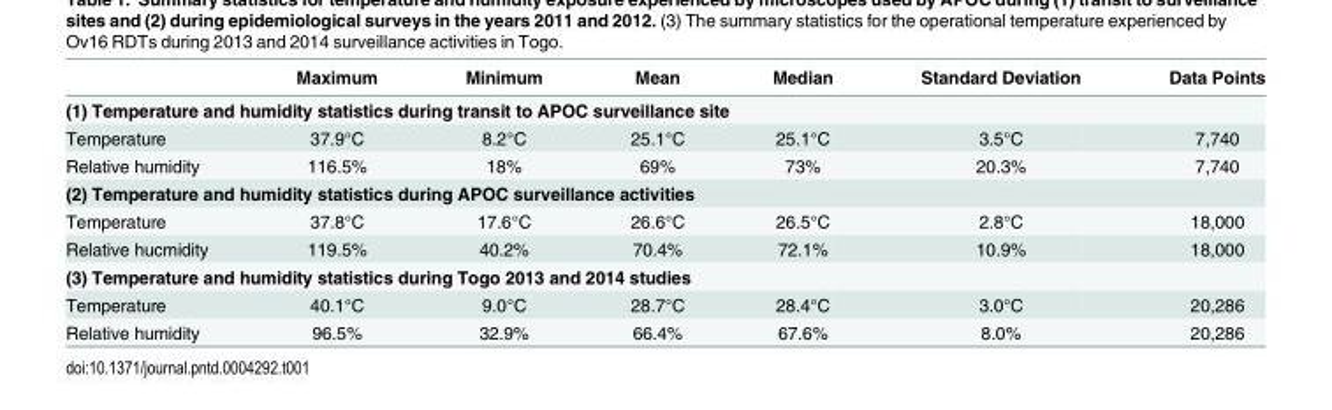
<table><thead><tr><td></td><td>Maximum</td><td>Minimum</td><td>Mean</td><td>Median</td><td>Standard Deviation</td><td>Data Points</td></tr></thead><tbody><tr><td colspan="7">(1) Temperature and humidity statistics during transit to APOC surveillance site</td></tr><tr><td>Temperature</td><td>37.9°C</td><td>8.2°C</td><td>25.1°C</td><td>25.1°C</td><td>3.5°C</td><td>7,740</td></tr><tr><td>Relative humidity</td><td>116.5%</td><td>18%</td><td>69%</td><td>73%</td><td>20.3%</td><td>7,740</td></tr><tr><td colspan="7">(2) Temperature and humidity statistics during APOC surveillance activities</td></tr><tr><td>Temperature</td><td>37.8°C</td><td>17.6°C</td><td>26.6°C</td><td>26.5°C</td><td>2.8°C</td><td>18,000</td></tr><tr><td>Relative hucmidity</td><td>119.5%</td><td>40.2%</td><td>70.4%</td><td>72.1%</td><td>10.9%</td><td>18,000</td></tr><tr><td colspan="7">(3) Temperature and humidity statistics during Togo 2013 and 2014 studies</td></tr><tr><td>Temperature</td><td>40.1°C</td><td>9.0°C</td><td>28.7°C</td><td>28.4°C</td><td>3.0°C</td><td>20,286</td></tr><tr><td>Relative humidity</td><td>96.5%</td><td>32.9%</td><td>66.4%</td><td>67.6%</td><td>8.0%</td><td>20,286</td></tr></tbody></table>